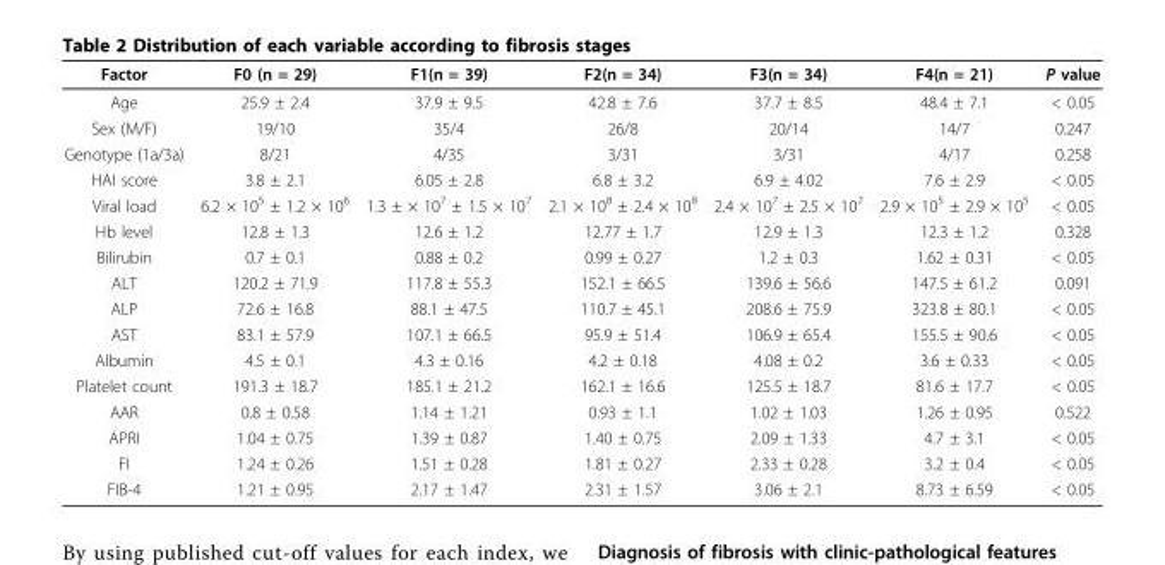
<table><thead><tr><td>Factor</td><td>F0 (n = 29)</td><td>F1(n = 39)</td><td>F2(n = 34)</td><td>F3(n = 34)</td><td>F4(n = 21)</td><td>P value</td></tr></thead><tbody><tr><td>Age</td><td>25.9 ± 2.4</td><td>37.9 ± 9.5</td><td>42.8 ± 7.6</td><td>37.7 ± 8.5</td><td>48.4 ± 7.1</td><td>&lt; 0.05</td></tr><tr><td>Sex (M/F)</td><td>19/10</td><td>35/4</td><td>26/8</td><td>20/14</td><td>14/7</td><td>0.247</td></tr><tr><td>Genotype (1a/3a)</td><td>8/21</td><td>4/35</td><td>3/31</td><td>3/31</td><td>4/17</td><td>0.258</td></tr><tr><td>HAI score</td><td>3.8 ± 2.1</td><td>6.05 ± 2.8</td><td>6.8 ± 3.2</td><td>6.9 ± 4.02</td><td>7.6 ± 2.9</td><td>&lt; 0.05</td></tr><tr><td>Viral load</td><td>6.2 × 10<sup>5</sup> ± 1.2 × 10<sup>6</sup></td><td>1.3 ± × 10<sup>7</sup> ± 1.5 × 10<sup>7</sup></td><td>2.1 × 10<sup>8</sup> ± 2.4 × 10<sup>8</sup></td><td>2.4 × 10<sup>7</sup> ± 2.5 × 10<sup>7</sup></td><td>2.9 × 10<sup>5</sup> ± 2.9 × 10<sup>5</sup></td><td>&lt; 0.05</td></tr><tr><td>Hb level</td><td>12.8 ± 1.3</td><td>12.6 ± 1.2</td><td>12.77 ± 1.7</td><td>12.9 ± 1.3</td><td>12.3 ± 1.2</td><td>0.328</td></tr><tr><td>Bilirubin</td><td>0.7 ± 0.1</td><td>0.88 ± 0.2</td><td>0.99 ± 0.27</td><td>1.2 ± 0.3</td><td>1.62 ± 0.31</td><td>&lt; 0.05</td></tr><tr><td>ALT</td><td>120.2 ± 71.9</td><td>117.8 ± 55.3</td><td>152.1 ± 66.5</td><td>139.6 ± 56.6</td><td>147.5 ± 61.2</td><td>0.091</td></tr><tr><td>ALP</td><td>72.6 ± 16.8</td><td>88.1 ± 47.5</td><td>110.7 ± 45.1</td><td>208.6 ± 75.9</td><td>323.8 ± 80.1</td><td>&lt; 0.05</td></tr><tr><td>AST</td><td>83.1 ± 57.9</td><td>107.1 ± 66.5</td><td>95.9 ± 51.4</td><td>106.9 ± 65.4</td><td>155.5 ± 90.6</td><td>&lt; 0.05</td></tr><tr><td>Albumin</td><td>4.5 ± 0.1</td><td>4.3 ± 0.16</td><td>4.2 ± 0.18</td><td>4.08 ± 0.2</td><td>3.6 ± 0.33</td><td>&lt; 0.05</td></tr><tr><td>Platelet count</td><td>191.3 ± 18.7</td><td>185.1 ± 21.2</td><td>162.1 ± 16.6</td><td>125.5 ± 18.7</td><td>81.6 ± 17.7</td><td>&lt; 0.05</td></tr><tr><td>AAR</td><td>0.8 ± 0.58</td><td>1.14 ± 1.21</td><td>0.93 ± 1.1</td><td>1.02 ± 1.03</td><td>1.26 ± 0.95</td><td>0.522</td></tr><tr><td>APRI</td><td>1.04 ± 0.75</td><td>1.39 ± 0.87</td><td>1.40 ± 0.75</td><td>2.09 ± 1.33</td><td>4.7 ± 3.1</td><td>&lt; 0.05</td></tr><tr><td>FI</td><td>1.24 ± 0.26</td><td>1.51 ± 0.28</td><td>1.81 ± 0.27</td><td>2.33 ± 0.28</td><td>3.2 ± 0.4</td><td>&lt; 0.05</td></tr><tr><td>FIB-4</td><td>1.21 ± 0.95</td><td>2.17 ± 1.47</td><td>2.31 ± 1.57</td><td>3.06 ± 2.1</td><td>8.73 ± 6.59</td><td>&lt; 0.05</td></tr></tbody></table>